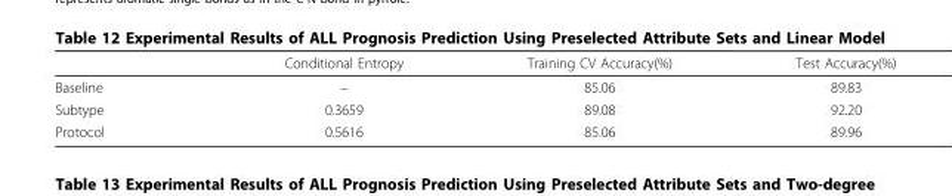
<table><thead><tr><td></td><td>Conditional Entropy</td><td>Training CV Accuracy(%)</td><td>Test Accuracy(%)</td></tr></thead><tbody><tr><td>Baseline</td><td>–</td><td>85.06</td><td>89.83</td></tr><tr><td>Subtype</td><td>0.3659</td><td>89.08</td><td>92.20</td></tr><tr><td>Protocol</td><td>0.5616</td><td>85.06</td><td>89.96</td></tr></tbody></table>